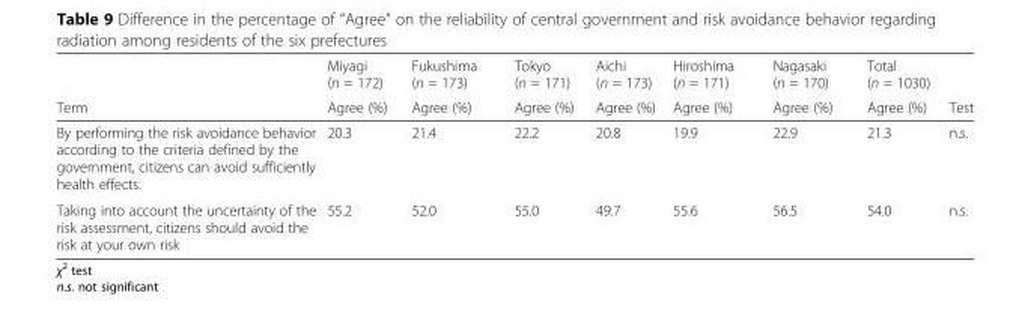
<table><thead><tr><td rowspan="2">Term</td><td rowspan="2">Miyagi (n = 172) Agree (%)</td><td rowspan="2">Fukushima (n = 173) Agree (%)</td><td rowspan="2">Tokyo (n = 171) Agree (%)</td><td rowspan="2">Aichi (n = 173) Agree (%)</td><td rowspan="2">Hiroshima (n = 171) Agree (%)</td><td rowspan="2">Nagasaki (n = 170) Agree (%)</td><td rowspan="2">Total (n = 1030) Agree (%)</td><td rowspan="2">Test</td></tr><tr></tr></thead><tbody><tr><td>By performing the risk avoidance behavior according to the criteria defined by the government, citizens can avoid sufficiently health effects.</td><td>20.3</td><td>21.4</td><td>22.2</td><td>20.8</td><td>19.9</td><td>22.9</td><td>21.3</td><td>n.s.</td></tr><tr><td>Taking into account the uncertainty of the risk assessment, citizens should avoid the risk at your own risk</td><td>55.2</td><td>52.0</td><td>55.0</td><td>49.7</td><td>55.6</td><td>56.5</td><td>54.0</td><td>n.s.</td></tr></tbody></table>